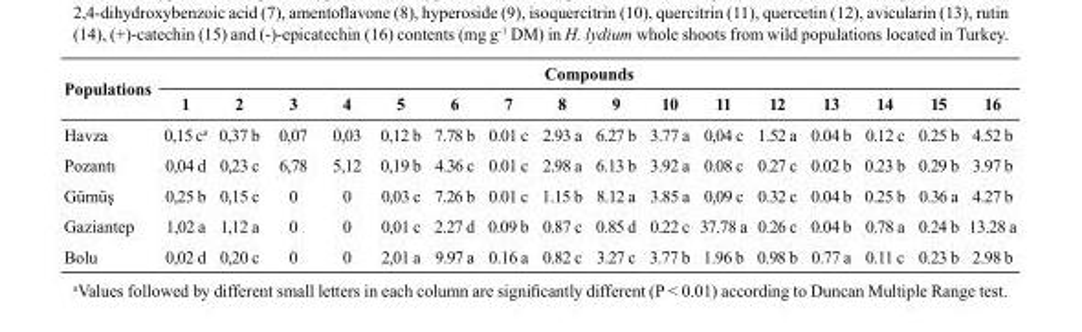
<table><thead><tr><td rowspan="2">Populations</td><td colspan="16">Compounds</td></tr><tr><td>1</td><td>2</td><td>3</td><td>4</td><td>5</td><td>6</td><td>7</td><td>8</td><td>9</td><td>10</td><td>11</td><td>12</td><td>13</td><td>14</td><td>15</td><td>16</td></tr></thead><tbody><tr><td>Havza</td><td>0,15 c<sup>a</sup></td><td>0,37 b</td><td>0,07</td><td>0,03</td><td>0,12 b</td><td>7.78 b</td><td>0.01 c</td><td>2.93 a</td><td>6.27 b</td><td>3.77 a</td><td>0,04 c</td><td>1.52 a</td><td>0.04 b</td><td>0.12 c</td><td>0.25 b</td><td>4.52 b</td></tr><tr><td>Pozantı</td><td>0,04 d</td><td>0,23 c</td><td>6,78</td><td>5,12</td><td>0,19 b</td><td>4.36 c</td><td>0.01 c</td><td>2.98 a</td><td>6.13 b</td><td>3.92 a</td><td>0.08 c</td><td>0.27 c</td><td>0.02 b</td><td>0.23 b</td><td>0.29 b</td><td>3.97 b</td></tr><tr><td>Gümüş</td><td>0,25 b</td><td>0,15 c</td><td>0</td><td>0</td><td>0,03 c</td><td>7.26 b</td><td>0.01 c</td><td>1.15 b</td><td>8.12 a</td><td>3.85 a</td><td>0,09 c</td><td>0.32 c</td><td>0.04 b</td><td>0.25 b</td><td>0.36 a</td><td>4.27 b</td></tr><tr><td>Gaziantep</td><td>1,02 a</td><td>1,12 a</td><td>0</td><td>0</td><td>0,01 c</td><td>2.27 d</td><td>0.09 b</td><td>0.87 c</td><td>0.85 d</td><td>0.22 c</td><td>37.78 a</td><td>0.26 c</td><td>0.04 b</td><td>0.78 a</td><td>0.24 b</td><td>13.28 a</td></tr><tr><td>Bolu</td><td>0,02 d</td><td>0,20 c</td><td>0</td><td>0</td><td>2,01 a</td><td>9.97 a</td><td>0.16 a</td><td>0.82 c</td><td>3.27 c</td><td>3.77 b</td><td>1.96 b</td><td>0.98 b</td><td>0.77 a</td><td>0.11 c</td><td>0.23 b</td><td>2.98 b</td></tr></tbody></table>